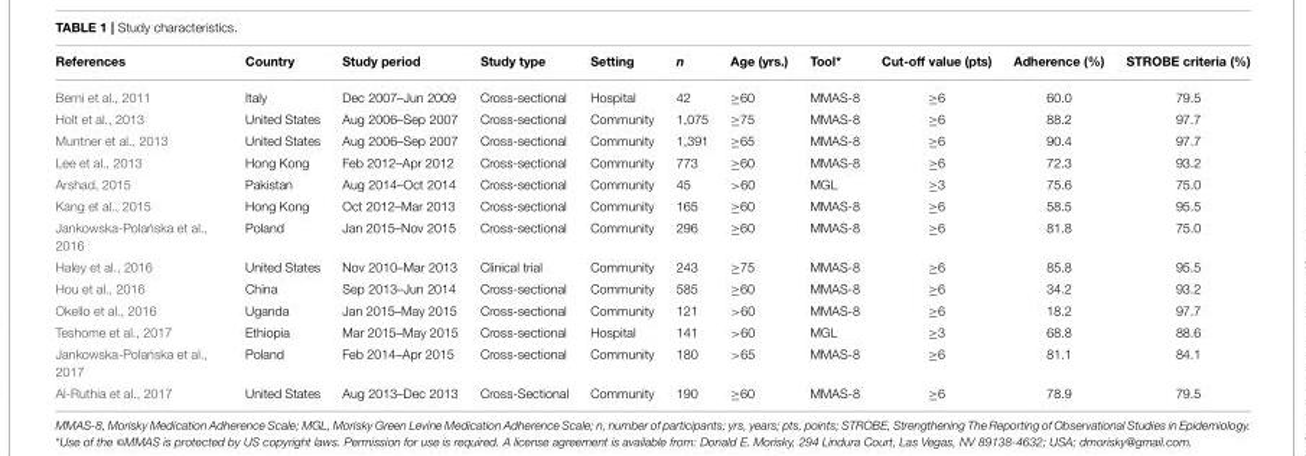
<table><thead><tr><td>References</td><td>Country</td><td>Study period</td><td>Study type</td><td>Setting</td><td>n</td><td>Age (yrs.)</td><td>Tool*</td><td>Cut-off value (pts)</td><td>Adherence (%)</td><td>STROBE criteria (%)</td></tr></thead><tbody><tr><td>Berni et al., 2011</td><td>Italy</td><td>Dec 2007–Jun 2009</td><td>Cross-sectional</td><td>Hospital</td><td>42</td><td>≥60</td><td>MMAS-8</td><td>≥6</td><td>60.0</td><td>79.5</td></tr><tr><td>Holt et al., 2013</td><td>United States</td><td>Aug 2006–Sep 2007</td><td>Cross-sectional</td><td>Community</td><td>1,075</td><td>≥75</td><td>MMAS-8</td><td>≥6</td><td>88.2</td><td>97.7</td></tr><tr><td>Muntner et al., 2013</td><td>United States</td><td>Aug 2006–Sep 2007</td><td>Cross-sectional</td><td>Community</td><td>1,391</td><td>≥65</td><td>MMAS-8</td><td>≥6</td><td>90.4</td><td>97.7</td></tr><tr><td>Lee et al., 2013</td><td>Hong Kong</td><td>Feb 2012–Apr 2012</td><td>Cross-sectional</td><td>Community</td><td>773</td><td>≥60</td><td>MMAS-8</td><td>≥6</td><td>72.3</td><td>93.2</td></tr><tr><td>Arshad, 2015</td><td>Pakistan</td><td>Aug 2014–Oct 2014</td><td>Cross-sectional</td><td>Community</td><td>45</td><td>&gt;60</td><td>MGL</td><td>≥3</td><td>75.6</td><td>75.0</td></tr><tr><td>Kang et al., 2015</td><td>Hong Kong</td><td>Oct 2012–Mar 2013</td><td>Cross-sectional</td><td>Community</td><td>165</td><td>≥60</td><td>MMAS-8</td><td>≥6</td><td>58.5</td><td>95.5</td></tr><tr><td>Jankowska-Pola ´nska et al., 2016</td><td>Poland</td><td>Jan 2015–Nov 2015</td><td>Cross-sectional</td><td>Community</td><td>296</td><td>≥60</td><td>MMAS-8</td><td>≥6</td><td>81.8</td><td>75.0</td></tr><tr><td>Haley et al., 2016</td><td>United States</td><td>Nov 2010–Mar 2013</td><td>Clinical trial</td><td>Community</td><td>243</td><td>≥75</td><td>MMAS-8</td><td>≥6</td><td>85.8</td><td>95.5</td></tr><tr><td>Hou et al., 2016</td><td>China</td><td>Sep 2013–Jun 2014</td><td>Cross-sectional</td><td>Community</td><td>585</td><td>≥60</td><td>MMAS-8</td><td>≥6</td><td>34.2</td><td>93.2</td></tr><tr><td>Okello et al., 2016</td><td>Uganda</td><td>Jan 2015–May 2015</td><td>Cross-sectional</td><td>Community</td><td>121</td><td>&gt;60</td><td>MMAS-8</td><td>≥6</td><td>18.2</td><td>97.7</td></tr><tr><td>Teshome et al., 2017</td><td>Ethiopia</td><td>Mar 2015–May 2015</td><td>Cross-sectional</td><td>Hospital</td><td>141</td><td>&gt;60</td><td>MGL</td><td>≥3</td><td>68.8</td><td>88.6</td></tr><tr><td>Jankowska-Pola ´nska et al., 2017</td><td>Poland</td><td>Feb 2014–Apr 2015</td><td>Cross-sectional</td><td>Community</td><td>180</td><td>&gt;65</td><td>MMAS-8</td><td>≥6</td><td>81.1</td><td>84.1</td></tr><tr><td>Al-Ruthia et al., 2017</td><td>United States</td><td>Aug 2013–Dec 2013</td><td>Cross-Sectional</td><td>Community</td><td>190</td><td>≥60</td><td>MMAS-8</td><td>≥6</td><td>78.9</td><td>79.5</td></tr></tbody></table>